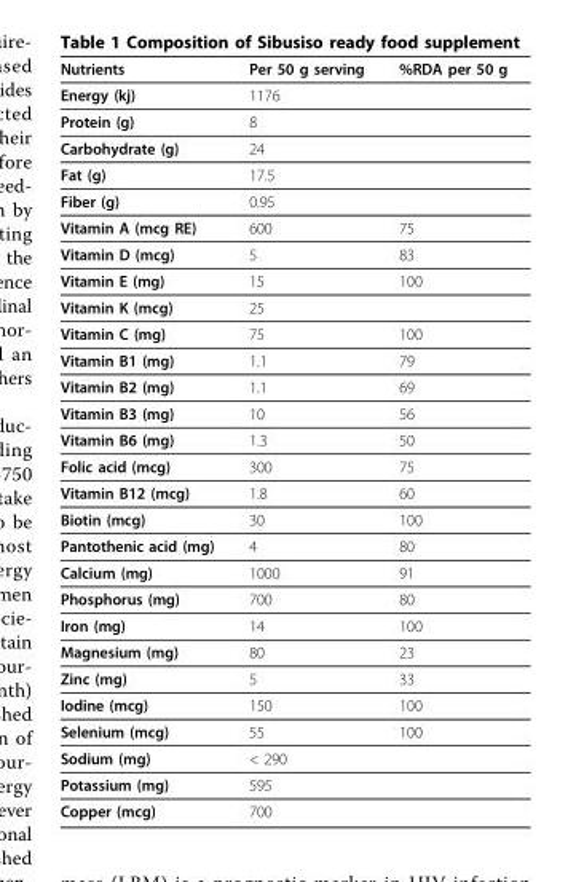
<table><thead><tr><td>Nutrients</td><td>Per 50 g serving</td><td>%RDA per 50 g</td></tr></thead><tbody><tr><td>Energy (kj)</td><td>1176</td><td></td></tr><tr><td>Protein (g)</td><td>8</td><td></td></tr><tr><td>Carbohydrate (g)</td><td>24</td><td></td></tr><tr><td>Fat (g)</td><td>17.5</td><td></td></tr><tr><td>Fiber (g)</td><td>0.95</td><td></td></tr><tr><td>Vitamin A (mcg RE)</td><td>600</td><td>75</td></tr><tr><td>Vitamin D (mcg)</td><td>5</td><td>83</td></tr><tr><td>Vitamin E (mg)</td><td>15</td><td>100</td></tr><tr><td>Vitamin K (mcg)</td><td>25</td><td></td></tr><tr><td>Vitamin C (mg)</td><td>75</td><td>100</td></tr><tr><td>Vitamin B1 (mg)</td><td>1.1</td><td>79</td></tr><tr><td>Vitamin B2 (mg)</td><td>1.1</td><td>69</td></tr><tr><td>Vitamin B3 (mg)</td><td>10</td><td>56</td></tr><tr><td>Vitamin B6 (mg)</td><td>1.3</td><td>50</td></tr><tr><td>Folic acid (mcg)</td><td>300</td><td>75</td></tr><tr><td>Vitamin B12 (mcg)</td><td>1.8</td><td>60</td></tr><tr><td>Biotin (mcg)</td><td>30</td><td>100</td></tr><tr><td>Pantothenic acid (mg)</td><td>4</td><td>80</td></tr><tr><td>Calcium (mg)</td><td>1000</td><td>91</td></tr><tr><td>Phosphorus (mg)</td><td>700</td><td>80</td></tr><tr><td>Iron (mg)</td><td>14</td><td>100</td></tr><tr><td>Magnesium (mg)</td><td>80</td><td>23</td></tr><tr><td>Zinc (mg)</td><td>5</td><td>33</td></tr><tr><td>Iodine (mcg)</td><td>150</td><td>100</td></tr><tr><td>Selenium (mcg)</td><td>55</td><td>100</td></tr><tr><td>Sodium (mg)</td><td>&lt; 290</td><td></td></tr><tr><td>Potassium (mg)</td><td>595</td><td></td></tr><tr><td>Copper (mcg)</td><td>700</td><td></td></tr></tbody></table>